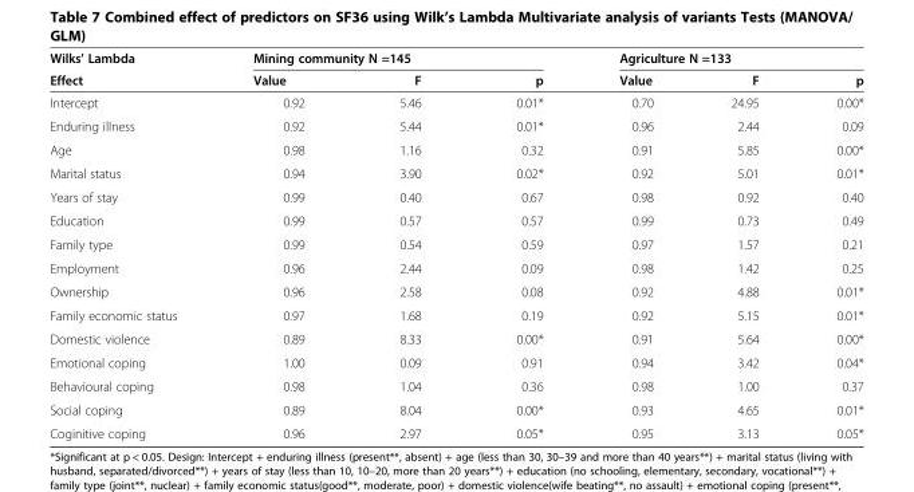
<table><thead><tr><td rowspan="2">Wilks’ Lambda Effect</td><td colspan="3">Mining community N =145</td><td colspan="3">Agriculture N =133</td></tr><tr><td>Value</td><td>F</td><td>p</td><td>Value</td><td>F</td><td>p</td></tr></thead><tbody><tr><td>Intercept</td><td>0.92</td><td>5.46</td><td>0.01*</td><td>0.70</td><td>24.95</td><td>0.00*</td></tr><tr><td>Enduring illness</td><td>0.92</td><td>5.44</td><td>0.01*</td><td>0.96</td><td>2.44</td><td>0.09</td></tr><tr><td>Age</td><td>0.98</td><td>1.16</td><td>0.32</td><td>0.91</td><td>5.85</td><td>0.00*</td></tr><tr><td>Marital status</td><td>0.94</td><td>3.90</td><td>0.02*</td><td>0.92</td><td>5.01</td><td>0.01*</td></tr><tr><td>Years of stay</td><td>0.99</td><td>0.40</td><td>0.67</td><td>0.98</td><td>0.92</td><td>0.40</td></tr><tr><td>Education</td><td>0.99</td><td>0.57</td><td>0.57</td><td>0.99</td><td>0.73</td><td>0.49</td></tr><tr><td>Family type</td><td>0.99</td><td>0.54</td><td>0.59</td><td>0.97</td><td>1.57</td><td>0.21</td></tr><tr><td>Employment</td><td>0.96</td><td>2.44</td><td>0.09</td><td>0.98</td><td>1.42</td><td>0.25</td></tr><tr><td>Ownership</td><td>0.96</td><td>2.58</td><td>0.08</td><td>0.92</td><td>4.88</td><td>0.01*</td></tr><tr><td>Family economic status</td><td>0.97</td><td>1.68</td><td>0.19</td><td>0.92</td><td>5.15</td><td>0.01*</td></tr><tr><td>Domestic violence</td><td>0.89</td><td>8.33</td><td>0.00*</td><td>0.91</td><td>5.64</td><td>0.00*</td></tr><tr><td>Emotional coping</td><td>1.00</td><td>0.09</td><td>0.91</td><td>0.94</td><td>3.42</td><td>0.04*</td></tr><tr><td>Behavioural coping</td><td>0.98</td><td>1.04</td><td>0.36</td><td>0.98</td><td>1.00</td><td>0.37</td></tr><tr><td>Social coping</td><td>0.89</td><td>8.04</td><td>0.00*</td><td>0.93</td><td>4.65</td><td>0.01*</td></tr><tr><td>Coginitive coping</td><td>0.96</td><td>2.97</td><td>0.05*</td><td>0.95</td><td>3.13</td><td>0.05*</td></tr></tbody></table>